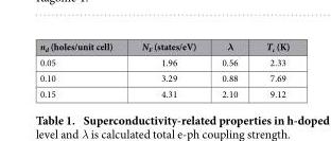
<table><thead><tr><td>n<sub>d</sub> (holes/unit cell)</td><td>N<sub>F</sub> (states/eV)</td><td>λ</td><td>T<sub>c</sub> (K)</td></tr></thead><tbody><tr><td>0.05</td><td>1.96</td><td>0.56</td><td>2.33</td></tr><tr><td>0.10</td><td>3.29</td><td>0.88</td><td>7.69</td></tr><tr><td>0.15</td><td>4.31</td><td>2.10</td><td>9.12</td></tr></tbody></table>